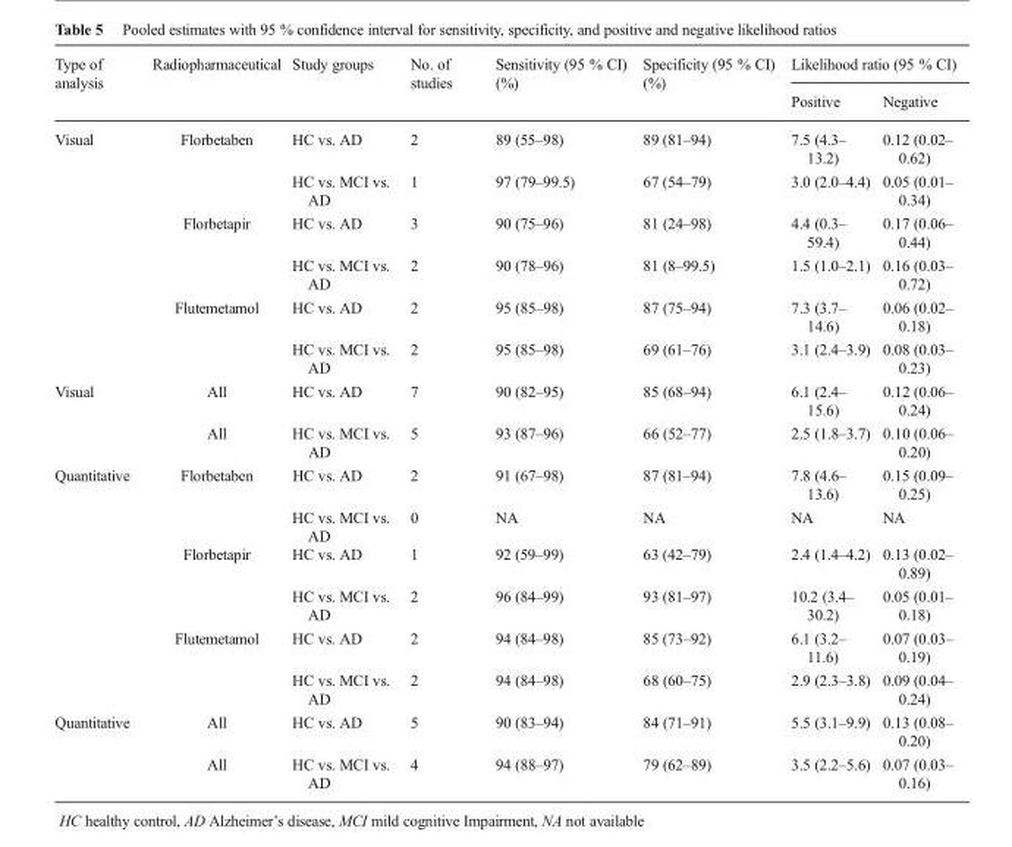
<table><thead><tr><td rowspan="2">Type of analysis</td><td rowspan="2">Radiopharmaceutical</td><td rowspan="2">Study groups</td><td rowspan="2">No. of studies</td><td rowspan="2">Sensitivity (95 % CI) (%)</td><td rowspan="2">Specificity (95 % CI) (%)</td><td colspan="2">Likelihood ratio (95 % CI)</td></tr><tr><td>Positive</td><td>Negative</td></tr></thead><tbody><tr><td rowspan="6">Visual</td><td rowspan="2">Florbetaben</td><td>HC vs. AD</td><td>2</td><td>89 (55–98)</td><td>89 (81–94)</td><td>7.5 (4.3– 13.2)</td><td>0.12 (0.02– 0.62)</td></tr><tr><td>HC vs. MCI vs. AD</td><td>1</td><td>97 (79–99.5)</td><td>67 (54–79)</td><td>3.0 (2.0–4.4)</td><td>0.05 (0.01– 0.34)</td></tr><tr><td rowspan="2">Florbetapir</td><td>HC vs. AD</td><td>3</td><td>90 (75–96)</td><td>81 (24–98)</td><td>4.4 (0.3– 59.4)</td><td>0.17 (0.06– 0.44)</td></tr><tr><td>HC vs. MCI vs. AD</td><td>2</td><td>90 (78–96)</td><td>81 (8–99.5)</td><td>1.5 (1.0–2.1)</td><td>0.16 (0.03– 0.72)</td></tr><tr><td rowspan="2">Flutemetamol</td><td>HC vs. AD</td><td>2</td><td>95 (85–98)</td><td>87 (75–94)</td><td>7.3 (3.7– 14.6)</td><td>0.06 (0.02– 0.18)</td></tr><tr><td>HC vs. MCI vs. AD</td><td>2</td><td>95 (85–98)</td><td>69 (61–76)</td><td>3.1 (2.4–3.9)</td><td>0.08 (0.03– 0.23)</td></tr><tr><td rowspan="2">Visual</td><td>All</td><td>HC vs. AD</td><td>7</td><td>90 (82–95)</td><td>85 (68–94)</td><td>6.1 (2.4– 15.6)</td><td>0.12 (0.06– 0.24)</td></tr><tr><td>All</td><td>HC vs. MCI vs. AD</td><td>5</td><td>93 (87–96)</td><td>66 (52–77)</td><td>2.5 (1.8–3.7)</td><td>0.10 (0.06– 0.20)</td></tr><tr><td rowspan="6">Quantitative</td><td rowspan="2">Florbetaben</td><td>HC vs. AD</td><td>2</td><td>91 (67–98)</td><td>87 (81–94)</td><td>7.8 (4.6– 13.6)</td><td>0.15 (0.09– 0.25)</td></tr><tr><td>HC vs. MCI vs. AD</td><td>0</td><td>NA</td><td>NA</td><td>NA</td><td>NA</td></tr><tr><td rowspan="2">Florbetapir</td><td>HC vs. AD</td><td>1</td><td>92 (59–99)</td><td>63 (42–79)</td><td>2.4 (1.4–4.2)</td><td>0.13 (0.02– 0.89)</td></tr><tr><td>HC vs. MCI vs. AD</td><td>2</td><td>96 (84–99)</td><td>93 (81–97)</td><td>10.2 (3.4– 30.2)</td><td>0.05 (0.01– 0.18)</td></tr><tr><td rowspan="2">Flutemetamol</td><td>HC vs. AD</td><td>2</td><td>94 (84–98)</td><td>85 (73–92)</td><td>6.1 (3.2– 11.6)</td><td>0.07 (0.03– 0.19)</td></tr><tr><td>HC vs. MCI vs. AD</td><td>2</td><td>94 (84–98)</td><td>68 (60–75)</td><td>2.9 (2.3–3.8)</td><td>0.09 (0.04– 0.24)</td></tr><tr><td rowspan="2">Quantitative</td><td>All</td><td>HC vs. AD</td><td>5</td><td>90 (83–94)</td><td>84 (71–91)</td><td>5.5 (3.1–9.9)</td><td>0.13 (0.08– 0.20)</td></tr><tr><td>All</td><td>HC vs. MCI vs. AD</td><td>4</td><td>94 (88–97)</td><td>79 (62–89)</td><td>3.5 (2.2–5.6)</td><td>0.07 (0.03– 0.16)</td></tr></tbody></table>